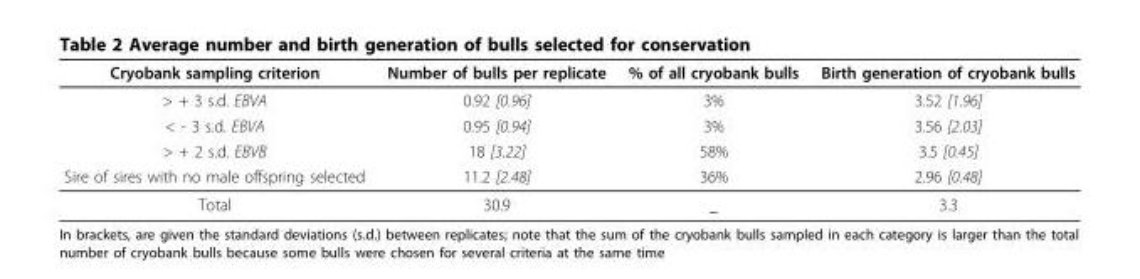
<table><thead><tr><td>Cryobank sampling criterion</td><td>Number of bulls per replicate</td><td>% of all cryobank bulls</td><td>Birth generation of cryobank bulls</td></tr></thead><tbody><tr><td>&gt; + 3 s.d. EBVA</td><td>0.92 [0.96]</td><td>3%</td><td>3.52 [1.96]</td></tr><tr><td>&lt; - 3 s.d. EBVA</td><td>0.95 [0.94]</td><td>3%</td><td>3.56 [2.03]</td></tr><tr><td>&gt; + 2 s.d. EBVB</td><td>18 [3.22]</td><td>58%</td><td>3.5 [0.45]</td></tr><tr><td>Sire of sires with no male offspring selected</td><td>11.2 [2.48]</td><td>36%</td><td>2.96 [0.48]</td></tr><tr><td>Total</td><td>30.9</td><td>_</td><td>3.3</td></tr></tbody></table>